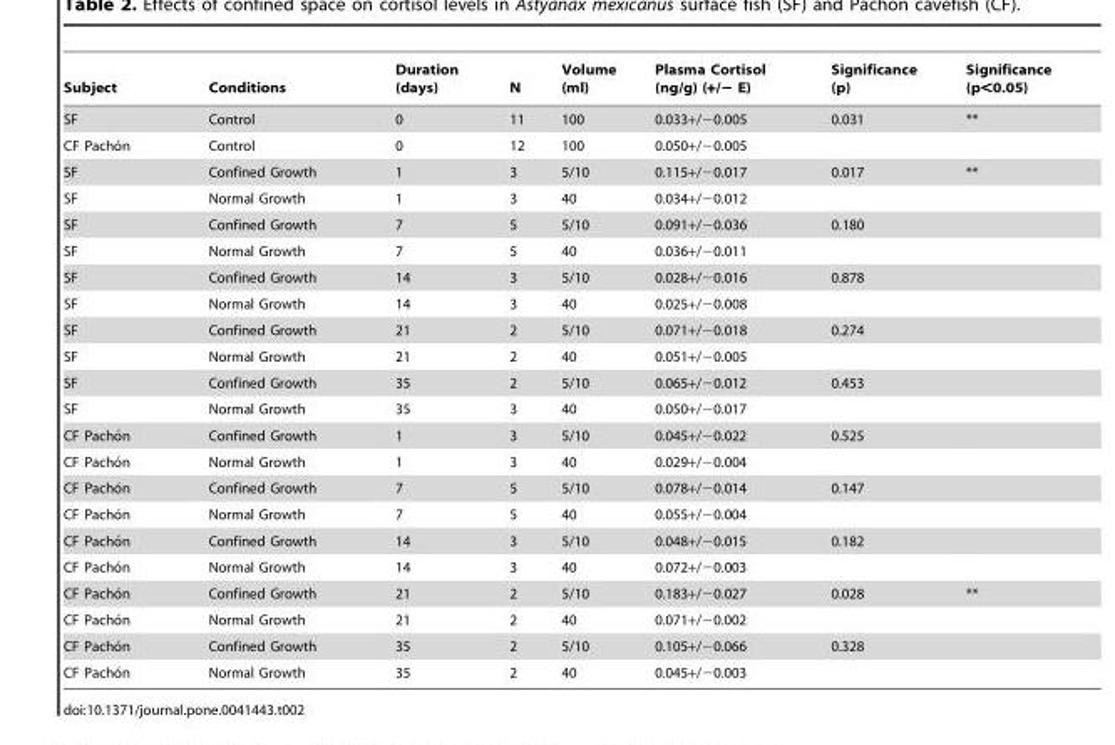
<table><thead><tr><td>Subject</td><td>Conditions</td><td>Duration (days)</td><td>N</td><td>Volume (ml)</td><td>Plasma Cortisol (ng/g) (+/− E)</td><td>Significance (p)</td><td>Significance (p&lt;0.05)</td></tr></thead><tbody><tr><td>SF</td><td>Control</td><td>0</td><td>11</td><td>100</td><td>0.033+/−0.005</td><td>0.031</td><td>**</td></tr><tr><td>CF Pacho´n</td><td>Control</td><td>0</td><td>12</td><td>100</td><td>0.050+/−0.005</td><td></td><td></td></tr><tr><td>SF</td><td>Confined Growth</td><td>1</td><td>3</td><td>5/10</td><td>0.115+/−0.017</td><td>0.017</td><td>**</td></tr><tr><td>SF</td><td>Normal Growth</td><td>1</td><td>3</td><td>40</td><td>0.034+/−0.012</td><td></td><td></td></tr><tr><td>SF</td><td>Confined Growth</td><td>7</td><td>5</td><td>5/10</td><td>0.091+/−0.036</td><td>0.180</td><td></td></tr><tr><td>SF</td><td>Normal Growth</td><td>7</td><td>5</td><td>40</td><td>0.036+/−0.011</td><td></td><td></td></tr><tr><td>SF</td><td>Confined Growth</td><td>14</td><td>3</td><td>5/10</td><td>0.028+/−0.016</td><td>0.878</td><td></td></tr><tr><td>SF</td><td>Normal Growth</td><td>14</td><td>3</td><td>40</td><td>0.025+/−0.008</td><td></td><td></td></tr><tr><td>SF</td><td>Confined Growth</td><td>21</td><td>2</td><td>5/10</td><td>0.071+/−0.018</td><td>0.274</td><td></td></tr><tr><td>SF</td><td>Normal Growth</td><td>21</td><td>2</td><td>40</td><td>0.051+/−0.005</td><td></td><td></td></tr><tr><td>SF</td><td>Confined Growth</td><td>35</td><td>2</td><td>5/10</td><td>0.065+/−0.012</td><td>0.453</td><td></td></tr><tr><td>SF</td><td>Normal Growth</td><td>35</td><td>3</td><td>40</td><td>0.050+/−0.017</td><td></td><td></td></tr><tr><td>CF Pacho´n</td><td>Confined Growth</td><td>1</td><td>3</td><td>5/10</td><td>0.045+/−0.022</td><td>0.525</td><td></td></tr><tr><td>CF Pacho´n</td><td>Normal Growth</td><td>1</td><td>3</td><td>40</td><td>0.029+/−0.004</td><td></td><td></td></tr><tr><td>CF Pacho´n</td><td>Confined Growth</td><td>7</td><td>5</td><td>5/10</td><td>0.078+/−0.014</td><td>0.147</td><td></td></tr><tr><td>CF Pacho´n</td><td>Normal Growth</td><td>7</td><td>5</td><td>40</td><td>0.055+/−0.004</td><td></td><td></td></tr><tr><td>CF Pacho´n</td><td>Confined Growth</td><td>14</td><td>3</td><td>5/10</td><td>0.048+/−0.015</td><td>0.182</td><td></td></tr><tr><td>CF Pacho´n</td><td>Normal Growth</td><td>14</td><td>3</td><td>40</td><td>0.072+/−0.003</td><td></td><td></td></tr><tr><td>CF Pacho´n</td><td>Confined Growth</td><td>21</td><td>2</td><td>5/10</td><td>0.183+/−0.027</td><td>0.028</td><td>**</td></tr><tr><td>CF Pacho´n</td><td>Normal Growth</td><td>21</td><td>2</td><td>40</td><td>0.071+/−0.002</td><td></td><td></td></tr><tr><td>CF Pacho´n</td><td>Confined Growth</td><td>35</td><td>2</td><td>5/10</td><td>0.105+/−0.066</td><td>0.328</td><td></td></tr><tr><td>CF Pacho´n</td><td>Normal Growth</td><td>35</td><td>2</td><td>40</td><td>0.045+/−0.003</td><td></td><td></td></tr></tbody></table>